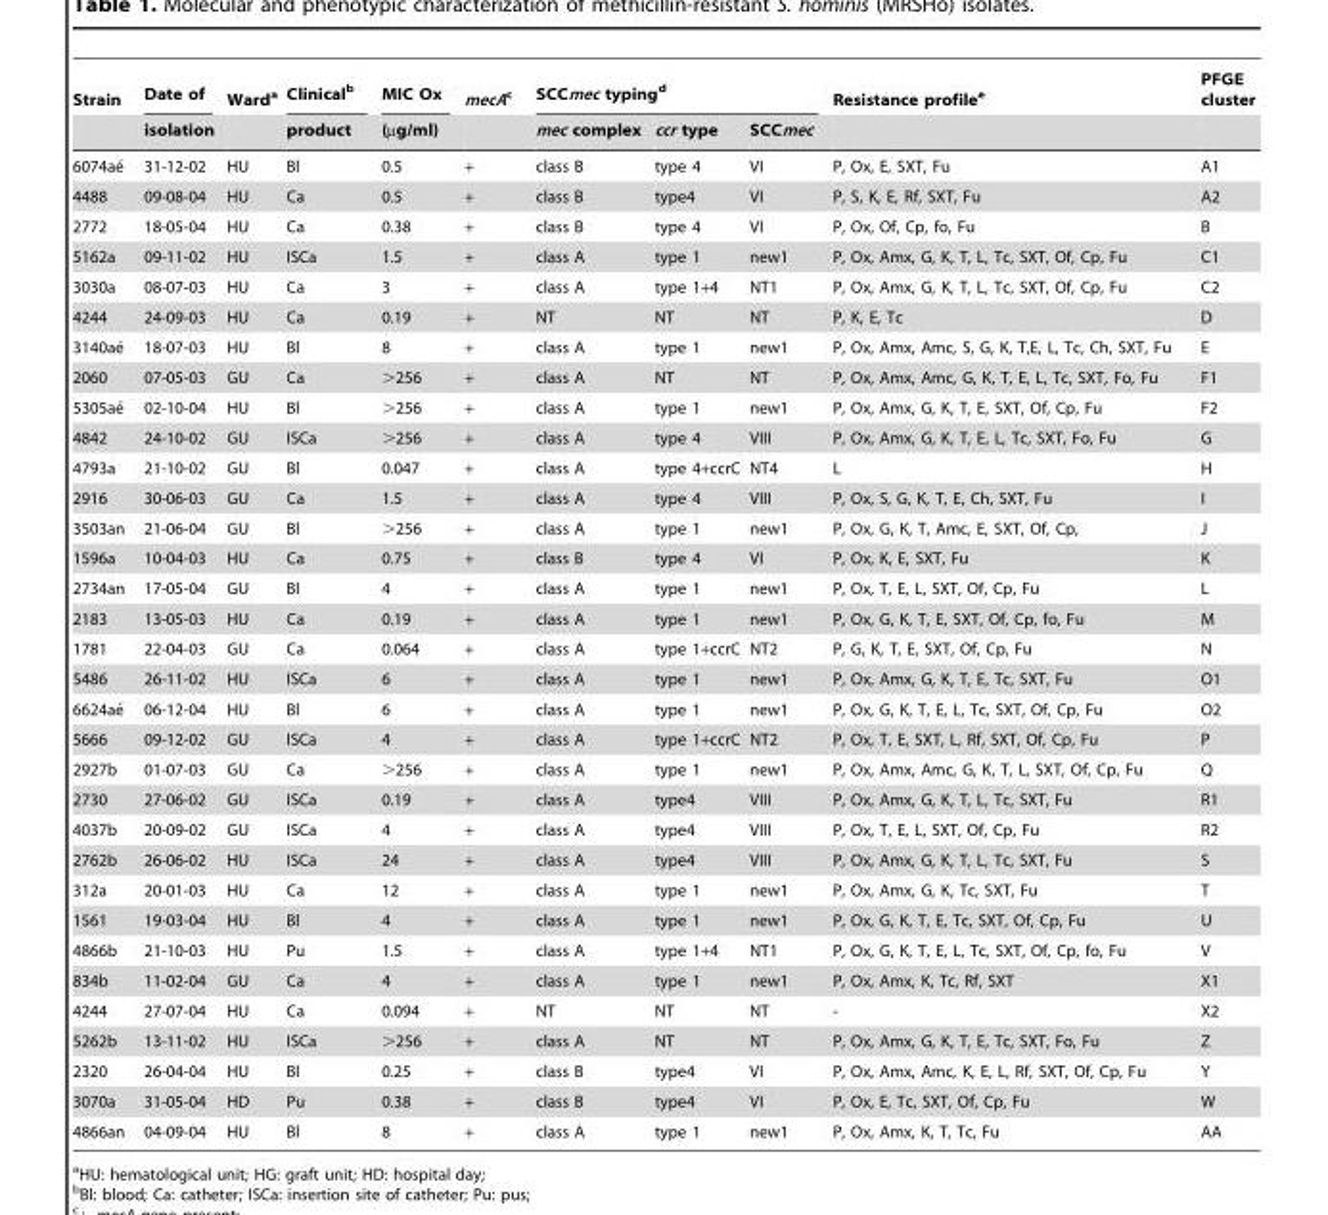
<table><thead><tr><td rowspan="2">Strain</td><td rowspan="2">Date of isolation</td><td rowspan="2">Ward<sup>a</sup></td><td rowspan="2">Clinical<sup>b</sup> product</td><td rowspan="2">MIC Ox (µg/ml)</td><td rowspan="2">mecAc</td><td colspan="3">SCCmec typing<sup>d</sup></td><td rowspan="2">Resistance profile<sup>e</sup></td><td rowspan="2">PFGE cluster</td></tr><tr><td>mec complex</td><td>ccr type</td><td>SCCmec</td></tr></thead><tbody><tr><td>6074ae´</td><td>31-12-02</td><td>HU</td><td>Bl</td><td>0.5</td><td>+</td><td>class B</td><td>type 4</td><td>VI</td><td>P, Ox, E, SXT, Fu</td><td>A1</td></tr><tr><td>4488</td><td>09-08-04</td><td>HU</td><td>Ca</td><td>0.5</td><td>+</td><td>class B</td><td>type4</td><td>VI</td><td>P, S, K, E, Rf, SXT, Fu</td><td>A2</td></tr><tr><td>2772</td><td>18-05-04</td><td>HU</td><td>Ca</td><td>0.38</td><td>+</td><td>class B</td><td>type 4</td><td>VI</td><td>P, Ox, Of, Cp, fo, Fu</td><td>B</td></tr><tr><td>5162a</td><td>09-11-02</td><td>HU</td><td>ISCa</td><td>1.5</td><td>+</td><td>class A</td><td>type 1</td><td>new1</td><td>P, Ox, Amx, G, K, T, L, Tc, SXT, Of, Cp, Fu</td><td>C1</td></tr><tr><td>3030a</td><td>08-07-03</td><td>HU</td><td>Ca</td><td>3</td><td>+</td><td>class A</td><td>type 1+4</td><td>NT1</td><td>P, Ox, Amx, G, K, T, L, Tc, SXT, Of, Cp, Fu</td><td>C2</td></tr><tr><td>4244</td><td>24-09-03</td><td>HU</td><td>Ca</td><td>0.19</td><td>+</td><td>NT</td><td>NT</td><td>NT</td><td>P, K, E, Tc</td><td>D</td></tr><tr><td>3140ae´</td><td>18-07-03</td><td>HU</td><td>Bl</td><td>8</td><td>+</td><td>class A</td><td>type 1</td><td>new1</td><td>P, Ox, Amx, Amc, S, G, K, T,E, L, Tc, Ch, SXT, Fu</td><td>E</td></tr><tr><td>2060</td><td>07-05-03</td><td>GU</td><td>Ca</td><td>&gt;256</td><td>+</td><td>class A</td><td>NT</td><td>NT</td><td>P, Ox, Amx, Amc, G, K, T, E, L, Tc, SXT, Fo, Fu</td><td>F1</td></tr><tr><td>5305ae´</td><td>02-10-04</td><td>HU</td><td>Bl</td><td>&gt;256</td><td>+</td><td>class A</td><td>type 1</td><td>new1</td><td>P, Ox, Amx, G, K, T, E, SXT, Of, Cp, Fu</td><td>F2</td></tr><tr><td>4842</td><td>24-10-02</td><td>GU</td><td>ISCa</td><td>&gt;256</td><td>+</td><td>class A</td><td>type 4</td><td>VIII</td><td>P, Ox, Amx, G, K, T, E, L, Tc, SXT, Fo, Fu</td><td>G</td></tr><tr><td>4793a</td><td>21-10-02</td><td>GU</td><td>Bl</td><td>0.047</td><td>+</td><td>class A</td><td>type 4+ccrC</td><td>NT4</td><td>L</td><td>H</td></tr><tr><td>2916</td><td>30-06-03</td><td>GU</td><td>Ca</td><td>1.5</td><td>+</td><td>class A</td><td>type 4</td><td>VIII</td><td>P, Ox, S, G, K, T, E, Ch, SXT, Fu</td><td>I</td></tr><tr><td>3503an</td><td>21-06-04</td><td>GU</td><td>Bl</td><td>&gt;256</td><td>+</td><td>class A</td><td>type 1</td><td>new1</td><td>P, Ox, G, K, T, Amc, E, SXT, Of, Cp,</td><td>J</td></tr><tr><td>1596a</td><td>10-04-03</td><td>HU</td><td>Ca</td><td>0.75</td><td>+</td><td>class B</td><td>type 4</td><td>VI</td><td>P, Ox, K, E, SXT, Fu</td><td>K</td></tr><tr><td>2734an</td><td>17-05-04</td><td>GU</td><td>Bl</td><td>4</td><td>+</td><td>class A</td><td>type 1</td><td>new1</td><td>P, Ox, T, E, L, SXT, Of, Cp, Fu</td><td>L</td></tr><tr><td>2183</td><td>13-05-03</td><td>HU</td><td>Ca</td><td>0.19</td><td>+</td><td>class A</td><td>type 1</td><td>new1</td><td>P, Ox, G, K, T, E, SXT, Of, Cp, fo, Fu</td><td>M</td></tr><tr><td>1781</td><td>22-04-03</td><td>GU</td><td>Ca</td><td>0.064</td><td>+</td><td>class A</td><td>type 1+ccrC</td><td>NT2</td><td>P, G, K, T, E, SXT, Of, Cp, Fu</td><td>N</td></tr><tr><td>5486</td><td>26-11-02</td><td>HU</td><td>ISCa</td><td>6</td><td>+</td><td>class A</td><td>type 1</td><td>new1</td><td>P, Ox, Amx, G, K, T, E, Tc, SXT, Fu</td><td>O1</td></tr><tr><td>6624ae´</td><td>06-12-04</td><td>HU</td><td>Bl</td><td>6</td><td>+</td><td>class A</td><td>type 1</td><td>new1</td><td>P, Ox, G, K, T, E, L, Tc, SXT, Of, Cp, Fu</td><td>O2</td></tr><tr><td>5666</td><td>09-12-02</td><td>GU</td><td>ISCa</td><td>4</td><td>+</td><td>class A</td><td>type 1+ccrC</td><td>NT2</td><td>P, Ox, T, E, SXT, L, Rf, SXT, Of, Cp, Fu</td><td>P</td></tr><tr><td>2927b</td><td>01-07-03</td><td>GU</td><td>Ca</td><td>&gt;256</td><td>+</td><td>class A</td><td>type 1</td><td>new1</td><td>P, Ox, Amx, Amc, G, K, T, L, SXT, Of, Cp, Fu</td><td>Q</td></tr><tr><td>2730</td><td>27-06-02</td><td>GU</td><td>ISCa</td><td>0.19</td><td>+</td><td>class A</td><td>type4</td><td>VIII</td><td>P, Ox, Amx, G, K, T, L, Tc, SXT, Fu</td><td>R1</td></tr><tr><td>4037b</td><td>20-09-02</td><td>GU</td><td>ISCa</td><td>4</td><td>+</td><td>class A</td><td>type4</td><td>VIII</td><td>P, Ox, T, E, L, SXT, Of, Cp, Fu</td><td>R2</td></tr><tr><td>2762b</td><td>26-06-02</td><td>HU</td><td>ISCa</td><td>24</td><td>+</td><td>class A</td><td>type4</td><td>VIII</td><td>P, Ox, Amx, G, K, T, L, Tc, SXT, Fu</td><td>S</td></tr><tr><td>312a</td><td>20-01-03</td><td>HU</td><td>Ca</td><td>12</td><td>+</td><td>class A</td><td>type 1</td><td>new1</td><td>P, Ox, Amx, G, K, Tc, SXT, Fu</td><td>T</td></tr><tr><td>1561</td><td>19-03-04</td><td>HU</td><td>Bl</td><td>4</td><td>+</td><td>class A</td><td>type 1</td><td>new1</td><td>P, Ox, G, K, T, E, Tc, SXT, Of, Cp, Fu</td><td>U</td></tr><tr><td>4866b</td><td>21-10-03</td><td>HU</td><td>Pu</td><td>1.5</td><td>+</td><td>class A</td><td>type 1+4</td><td>NT1</td><td>P, Ox, G, K, T, E, L, Tc, SXT, Of, Cp, fo, Fu</td><td>V</td></tr><tr><td>834b</td><td>11-02-04</td><td>GU</td><td>Ca</td><td>4</td><td>+</td><td>class A</td><td>type 1</td><td>new1</td><td>P, Ox, Amx, K, Tc, Rf, SXT</td><td>X1</td></tr><tr><td>4244</td><td>27-07-04</td><td>HU</td><td>Ca</td><td>0.094</td><td>+</td><td>NT</td><td>NT</td><td>NT</td><td>-</td><td>X2</td></tr><tr><td>5262b</td><td>13-11-02</td><td>HU</td><td>ISCa</td><td>&gt;256</td><td>+</td><td>class A</td><td>NT</td><td>NT</td><td>P, Ox, Amx, G, K, T, E, Tc, SXT, Fo, Fu</td><td>Z</td></tr><tr><td>2320</td><td>26-04-04</td><td>HU</td><td>Bl</td><td>0.25</td><td>+</td><td>class B</td><td>type4</td><td>VI</td><td>P, Ox, Amx, Amc, K, E, L, Rf, SXT, Of, Cp, Fu</td><td>Y</td></tr><tr><td>3070a</td><td>31-05-04</td><td>HD</td><td>Pu</td><td>0.38</td><td>+</td><td>class B</td><td>type4</td><td>VI</td><td>P, Ox, E, Tc, SXT, Of, Cp, Fu</td><td>W</td></tr><tr><td>4866an</td><td>04-09-04</td><td>HU</td><td>Bl</td><td>8</td><td>+</td><td>class A</td><td>type 1</td><td>new1</td><td>P, Ox, Amx, K, T, Tc, Fu</td><td>AA</td></tr></tbody></table>